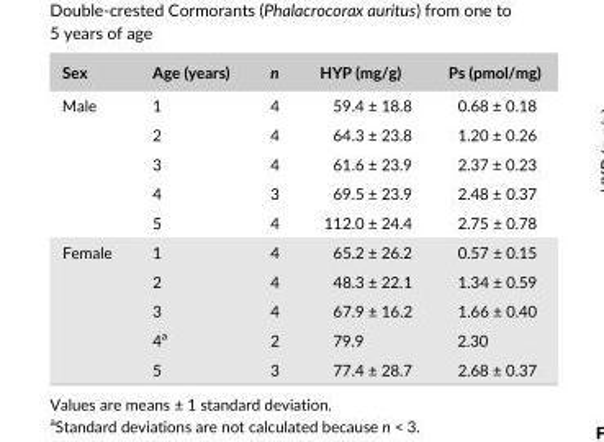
<table><thead><tr><td>Sex</td><td>Age (years)</td><td>n</td><td>HYP (mg/g)</td><td>Ps (pmol/mg)</td></tr></thead><tbody><tr><td rowspan="5">Male</td><td>1</td><td>4</td><td>59.4 ± 18.8</td><td>0.68 ± 0.18</td></tr><tr><td>2</td><td>4</td><td>64.3 ± 23.8</td><td>1.20 ± 0.26</td></tr><tr><td>3</td><td>4</td><td>61.6 ± 23.9</td><td>2.37 ± 0.23</td></tr><tr><td>4</td><td>3</td><td>69.5 ± 23.9</td><td>2.48 ± 0.37</td></tr><tr><td>5</td><td>4</td><td>112.0 ± 24.4</td><td>2.75 ± 0.78</td></tr><tr><td rowspan="5">Female</td><td>1</td><td>4</td><td>65.2 ± 26.2</td><td>0.57 ± 0.15</td></tr><tr><td>2</td><td>4</td><td>48.3 ± 22.1</td><td>1.34 ± 0.59</td></tr><tr><td>3</td><td>4</td><td>67.9 ± 16.2</td><td>1.66 ± 0.40</td></tr><tr><td>4<sup>a</sup></td><td>2</td><td>79.9</td><td>2.30</td></tr><tr><td>5</td><td>3</td><td>77.4 ± 28.7</td><td>2.68 ± 0.37</td></tr></tbody></table>